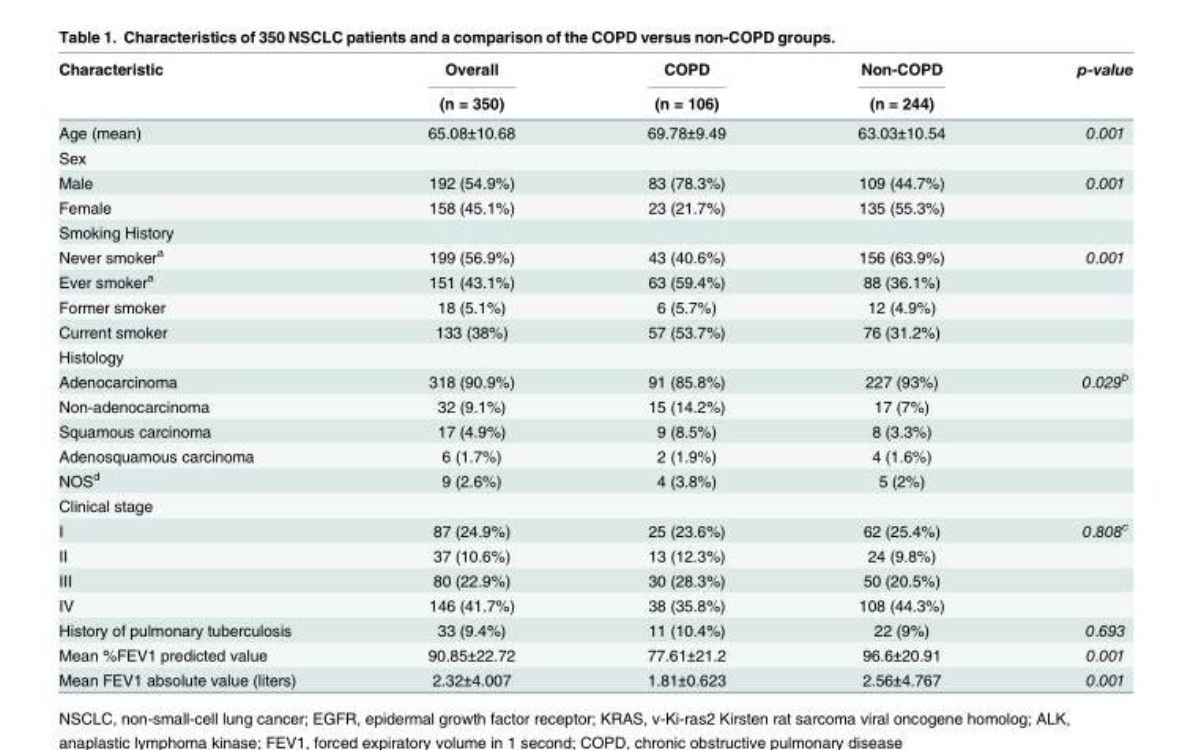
<table><thead><tr><td rowspan="2">Characteristic</td><td rowspan="2">Overall (n = 350)</td><td rowspan="2">COPD (n = 106)</td><td rowspan="2">Non-COPD (n = 244)</td><td rowspan="2">p-value</td></tr><tr></tr></thead><tbody><tr><td>Age (mean)</td><td>65.08±10.68</td><td>69.78±9.49</td><td>63.03±10.54</td><td>0.001</td></tr><tr><td colspan="5">Sex</td></tr><tr><td>Male</td><td>192 (54.9%)</td><td>83 (78.3%)</td><td>109 (44.7%)</td><td>0.001</td></tr><tr><td>Female</td><td>158 (45.1%)</td><td>23 (21.7%)</td><td>135 (55.3%)</td><td></td></tr><tr><td colspan="5">Smoking History</td></tr><tr><td>Never smoker<sup>a</sup></td><td>199 (56.9%)</td><td>43 (40.6%)</td><td>156 (63.9%)</td><td>0.001</td></tr><tr><td>Ever smoker<sup>a</sup></td><td>151 (43.1%)</td><td>63 (59.4%)</td><td>88 (36.1%)</td><td></td></tr><tr><td>Former smoker</td><td>18 (5.1%)</td><td>6 (5.7%)</td><td>12 (4.9%)</td><td></td></tr><tr><td>Current smoker</td><td>133 (38%)</td><td>57 (53.7%)</td><td>76 (31.2%)</td><td></td></tr><tr><td colspan="5">Histology</td></tr><tr><td>Adenocarcinoma</td><td>318 (90.9%)</td><td>91 (85.8%)</td><td>227 (93%)</td><td>0.029<sup>b</sup></td></tr><tr><td>Non-adenocarcinoma</td><td>32 (9.1%)</td><td>15 (14.2%)</td><td>17 (7%)</td><td></td></tr><tr><td>Squamous carcinoma</td><td>17 (4.9%)</td><td>9 (8.5%)</td><td>8 (3.3%)</td><td></td></tr><tr><td>Adenosquamous carcinoma</td><td>6 (1.7%)</td><td>2 (1.9%)</td><td>4 (1.6%)</td><td></td></tr><tr><td>NOS<sup>d</sup></td><td>9 (2.6%)</td><td>4 (3.8%)</td><td>5 (2%)</td><td></td></tr><tr><td colspan="5">Clinical stage</td></tr><tr><td>I</td><td>87 (24.9%)</td><td>25 (23.6%)</td><td>62 (25.4%)</td><td>0.808<sup>c</sup></td></tr><tr><td>II</td><td>37 (10.6%)</td><td>13 (12.3%)</td><td>24 (9.8%)</td><td></td></tr><tr><td>III</td><td>80 (22.9%)</td><td>30 (28.3%)</td><td>50 (20.5%)</td><td></td></tr><tr><td>IV</td><td>146 (41.7%)</td><td>38 (35.8%)</td><td>108 (44.3%)</td><td></td></tr><tr><td>History of pulmonary tuberculosis</td><td>33 (9.4%)</td><td>11 (10.4%)</td><td>22 (9%)</td><td>0.693</td></tr><tr><td>Mean %FEV1 predicted value</td><td>90.85±22.72</td><td>77.61±21.2</td><td>96.6±20.91</td><td>0.001</td></tr><tr><td>Mean FEV1 absolute value (liters)</td><td>2.32±4.007</td><td>1.81±0.623</td><td>2.56±4.767</td><td>0.001</td></tr></tbody></table>